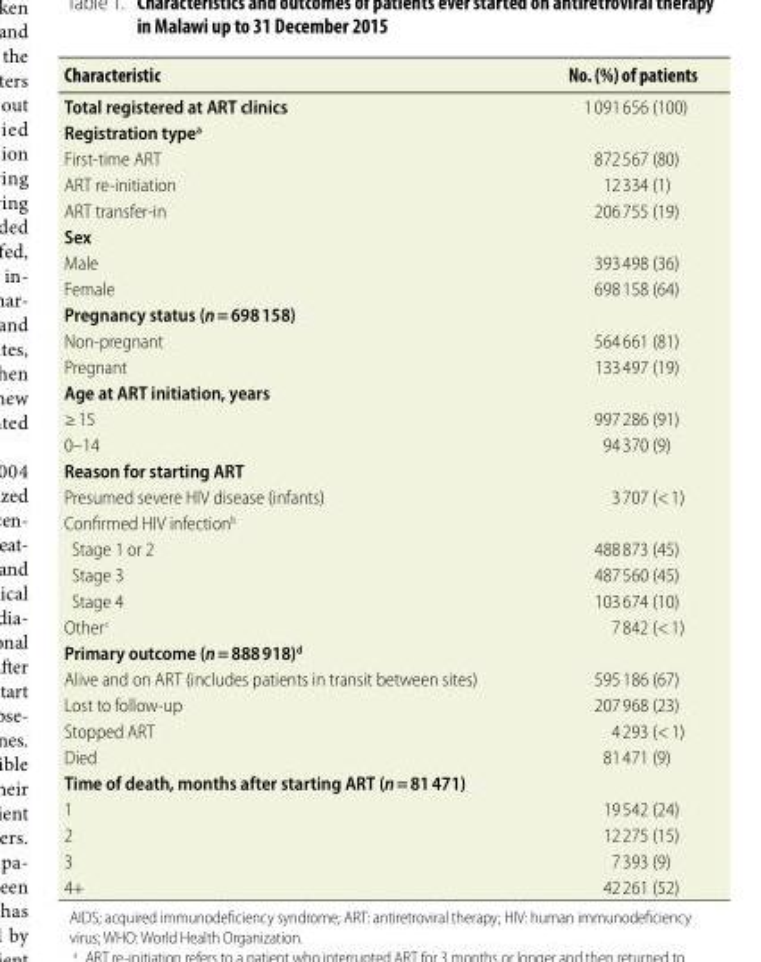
<table><thead><tr><td>Characteristic</td><td>No. (%) of patients</td></tr></thead><tbody><tr><td>Total registered at ART clinics</td><td>1 091 656 (100)</td></tr><tr><td colspan="2">Registration type<sup>a</sup></td></tr><tr><td>First-time ART</td><td>872 567 (80)</td></tr><tr><td>ART re-initiation</td><td>12 334 (1)</td></tr><tr><td>ART transfer-in</td><td>206 755 (19)</td></tr><tr><td colspan="2">Sex</td></tr><tr><td>Male</td><td>393 498 (36)</td></tr><tr><td>Female</td><td>698 158 (64)</td></tr><tr><td colspan="2">Pregnancy status (n = 698 158)</td></tr><tr><td>Non-pregnant</td><td>564 661 (81)</td></tr><tr><td>Pregnant</td><td>133 497 (19)</td></tr><tr><td colspan="2">Age at ART initiation, years</td></tr><tr><td>≥ 15</td><td>997 286 (91)</td></tr><tr><td>0–14</td><td>94 370 (9)</td></tr><tr><td colspan="2">Reason for starting ART</td></tr><tr><td>Presumed severe HIV disease (infants)</td><td>3 707 (&lt; 1)</td></tr><tr><td colspan="2">Confirmed HIV infection<sup>b</sup></td></tr><tr><td>Stage 1 or 2</td><td>488 873 (45)</td></tr><tr><td>Stage 3</td><td>487 560 (45)</td></tr><tr><td>Stage 4</td><td>103 674 (10)</td></tr><tr><td>Other<sup>c</sup></td><td>7 842 (&lt; 1)</td></tr><tr><td colspan="2">Primary outcome (n = 888 918)<sup>d</sup></td></tr><tr><td>Alive and on ART (includes patients in transit between sites)</td><td>595 186 (67)</td></tr><tr><td>Lost to follow-up</td><td>207 968 (23)</td></tr><tr><td>Stopped ART</td><td>4 293 (&lt; 1)</td></tr><tr><td>Died</td><td>81 471 (9)</td></tr><tr><td colspan="2">Time of death, months after starting ART (n = 81 471)</td></tr><tr><td>1</td><td>19 542 (24)</td></tr><tr><td>2</td><td>12 275 (15)</td></tr><tr><td>3</td><td>7 393 (9)</td></tr><tr><td>4+</td><td>42 261 (52)</td></tr></tbody></table>